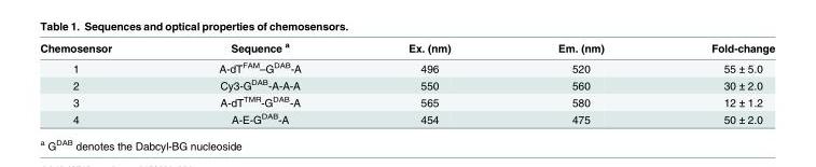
<table><thead><tr><td>Chemosensor</td><td>Sequence <sup>a</sup></td><td>Ex. (nm)</td><td>Em. (nm)</td><td>Fold-change</td></tr></thead><tbody><tr><td>1</td><td>A-dT<sup>FAM</sup>–G<sup>DAB</sup>-A</td><td>496</td><td>520</td><td>55 ± 5.0</td></tr><tr><td>2</td><td>Cy3-G<sup>DAB</sup>-A-A-A</td><td>550</td><td>560</td><td>30 ± 2.0</td></tr><tr><td>3</td><td>A-dT<sup>TMR</sup>-G<sup>DAB</sup>-A</td><td>565</td><td>580</td><td>12 ± 1.2</td></tr><tr><td>4</td><td>A-E-G<sup>DAB</sup>-A</td><td>454</td><td>475</td><td>50 ± 2.0</td></tr></tbody></table>